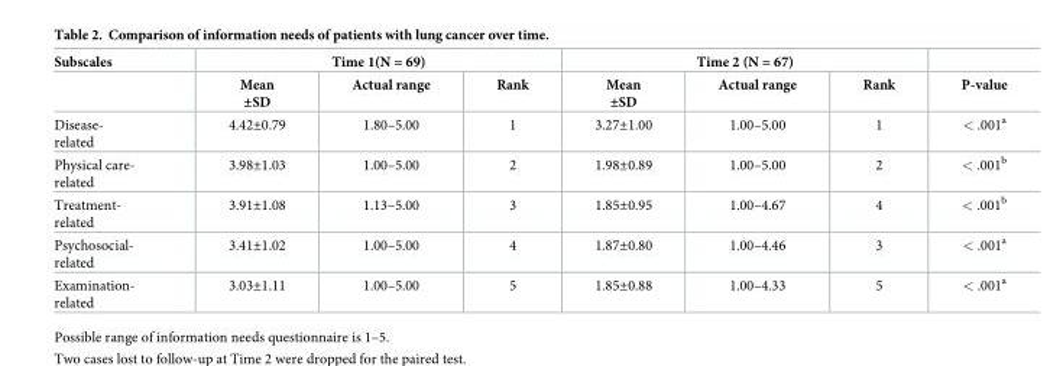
<table><thead><tr><td rowspan="2">Subscales</td><td colspan="3">Time 1(N = 69)</td><td colspan="3">Time 2 (N = 67)</td><td rowspan="2">P-value</td></tr><tr><td>Mean ±SD</td><td>Actual range</td><td>Rank</td><td>Mean ±SD</td><td>Actual range</td><td>Rank</td></tr></thead><tbody><tr><td>Disease- related</td><td>4.42±0.79</td><td>1.80–5.00</td><td>1</td><td>3.27±1.00</td><td>1.00–5.00</td><td>1</td><td>&lt; .001<sup>a</sup></td></tr><tr><td>Physical care- related</td><td>3.98±1.03</td><td>1.00–5.00</td><td>2</td><td>1.98±0.89</td><td>1.00–5.00</td><td>2</td><td>&lt; .001<sup>b</sup></td></tr><tr><td>Treatment- related</td><td>3.91±1.08</td><td>1.13–5.00</td><td>3</td><td>1.85±0.95</td><td>1.00–4.67</td><td>4</td><td>&lt; .001<sup>b</sup></td></tr><tr><td>Psychosocial- related</td><td>3.41±1.02</td><td>1.00–5.00</td><td>4</td><td>1.87±0.80</td><td>1.00–4.46</td><td>3</td><td>&lt; .001<sup>a</sup></td></tr><tr><td>Examination- related</td><td>3.03±1.11</td><td>1.00–5.00</td><td>5</td><td>1.85±0.88</td><td>1.00–4.33</td><td>5</td><td>&lt; .001<sup>a</sup></td></tr></tbody></table>